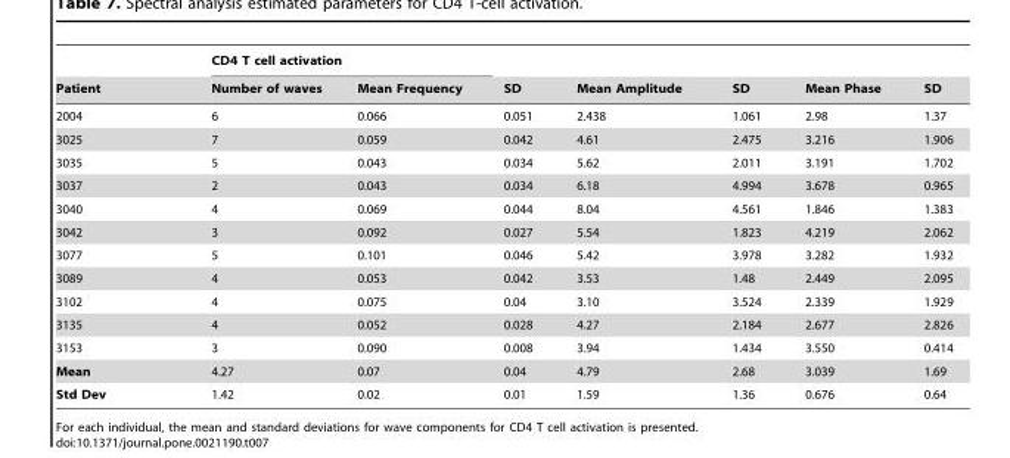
<table><thead><tr><td rowspan="2">Patient</td><td colspan="2">CD4 T cell activation</td><td rowspan="2">SD</td><td rowspan="2">Mean Amplitude</td><td rowspan="2">SD</td><td rowspan="2">Mean Phase</td><td rowspan="2">SD</td></tr><tr><td>Number of waves</td><td>Mean Frequency</td></tr></thead><tbody><tr><td>2004</td><td>6</td><td>0.066</td><td>0.051</td><td>2.438</td><td>1.061</td><td>2.98</td><td>1.37</td></tr><tr><td>3025</td><td>7</td><td>0.059</td><td>0.042</td><td>4.61</td><td>2.475</td><td>3.216</td><td>1.906</td></tr><tr><td>3035</td><td>5</td><td>0.043</td><td>0.034</td><td>5.62</td><td>2.011</td><td>3.191</td><td>1.702</td></tr><tr><td>3037</td><td>2</td><td>0.043</td><td>0.034</td><td>6.18</td><td>4.994</td><td>3.678</td><td>0.965</td></tr><tr><td>3040</td><td>4</td><td>0.069</td><td>0.044</td><td>8.04</td><td>4.561</td><td>1.846</td><td>1.383</td></tr><tr><td>3042</td><td>3</td><td>0.092</td><td>0.027</td><td>5.54</td><td>1.823</td><td>4.219</td><td>2.062</td></tr><tr><td>3077</td><td>5</td><td>0.101</td><td>0.046</td><td>5.42</td><td>3.978</td><td>3.282</td><td>1.932</td></tr><tr><td>3089</td><td>4</td><td>0.053</td><td>0.042</td><td>3.53</td><td>1.48</td><td>2.449</td><td>2.095</td></tr><tr><td>3102</td><td>4</td><td>0.075</td><td>0.04</td><td>3.10</td><td>3.524</td><td>2.339</td><td>1.929</td></tr><tr><td>3135</td><td>4</td><td>0.052</td><td>0.028</td><td>4.27</td><td>2.184</td><td>2.677</td><td>2.826</td></tr><tr><td>3153</td><td>3</td><td>0.090</td><td>0.008</td><td>3.94</td><td>1.434</td><td>3.550</td><td>0.414</td></tr><tr><td>Mean</td><td>4.27</td><td>0.07</td><td>0.04</td><td>4.79</td><td>2.68</td><td>3.039</td><td>1.69</td></tr><tr><td>Std Dev</td><td>1.42</td><td>0.02</td><td>0.01</td><td>1.59</td><td>1.36</td><td>0.676</td><td>0.64</td></tr></tbody></table>